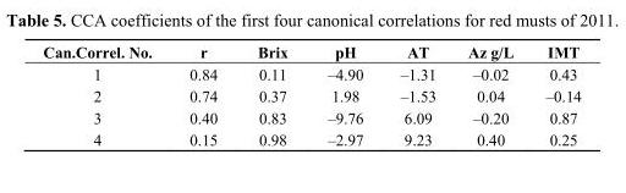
<table><thead><tr><td>Can.Correl. No.</td><td>r</td><td>Brix</td><td>pH</td><td>AT</td><td>Az g/L</td><td>IMT</td></tr></thead><tbody><tr><td>1</td><td>0.84</td><td>0.11</td><td>‒4.90</td><td>‒1.31</td><td>‒0.02</td><td>0.43</td></tr><tr><td>2</td><td>0.74</td><td>0.37</td><td>1.98</td><td>‒1.53</td><td>0.04</td><td>‒0.14</td></tr><tr><td>3</td><td>0.40</td><td>0.83</td><td>‒9.76</td><td>6.09</td><td>‒0.20</td><td>0.87</td></tr><tr><td>4</td><td>0.15</td><td>0.98</td><td>‒2.97</td><td>9.23</td><td>0.40</td><td>0.25</td></tr></tbody></table>